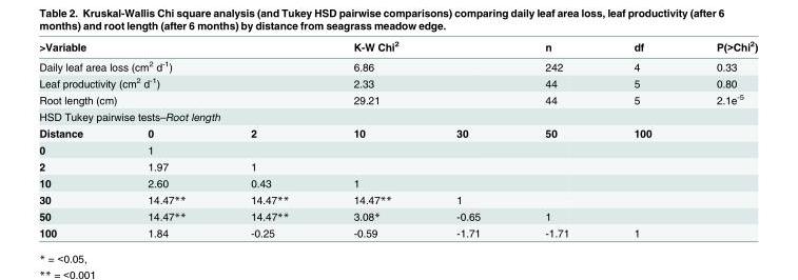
<table><thead><tr><td colspan="3">&gt;Variable</td><td colspan="2">K-W Chi<sup>2</sup></td><td>n</td><td>df</td><td>P(&gt;Chi<sup>2</sup>)</td></tr></thead><tbody><tr><td colspan="3">Daily leaf area loss (cm<sup>2</sup> d<sup>-1</sup>)</td><td colspan="2">6.86</td><td>242</td><td>4</td><td>0.33</td></tr><tr><td colspan="3">Leaf productivity (cm<sup>2</sup> d<sup>-1</sup>)</td><td colspan="2">2.33</td><td>44</td><td>5</td><td>0.80</td></tr><tr><td colspan="3">Root length (cm)</td><td colspan="2">29.21</td><td>44</td><td>5</td><td>2.1e<sup>-5</sup></td></tr><tr><td colspan="8">HSD Tukey pairwise tests–Root length</td></tr><tr><td>Distance</td><td>0</td><td>2</td><td>10</td><td>30</td><td>50</td><td>100</td><td></td></tr><tr><td>0</td><td>1</td><td></td><td></td><td></td><td></td><td></td><td></td></tr><tr><td>2</td><td>1.97</td><td>1</td><td></td><td></td><td></td><td></td><td></td></tr><tr><td>10</td><td>2.60</td><td>0.43</td><td>1</td><td></td><td></td><td></td><td></td></tr><tr><td>30</td><td>14.47**</td><td>14.47**</td><td>14.47**</td><td>1</td><td></td><td></td><td></td></tr><tr><td>50</td><td>14.47**</td><td>14.47**</td><td>3.08*</td><td>-0.65</td><td>1</td><td></td><td></td></tr><tr><td>100</td><td>1.84</td><td>-0.25</td><td>-0.59</td><td>-1.71</td><td>-1.71</td><td>1</td><td></td></tr></tbody></table>